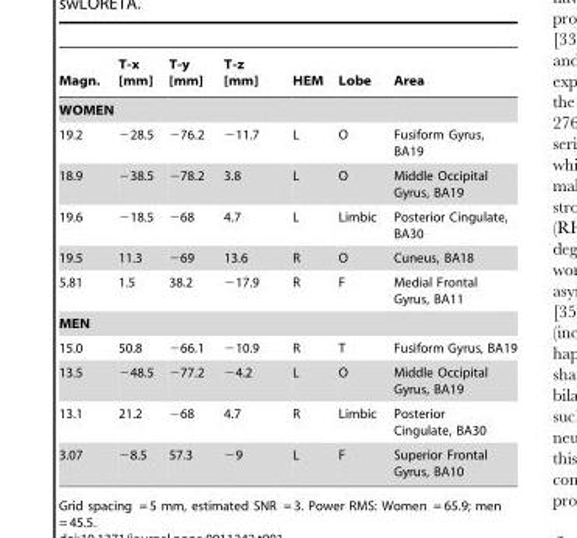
<table><thead><tr><td>Magn.</td><td>T-x [mm]</td><td>T-y [mm]</td><td>T-z [mm]</td><td>HEM</td><td>Lobe</td><td>Area</td></tr></thead><tbody><tr><td colspan="7">WOMEN</td></tr><tr><td>19.2</td><td>−28.5</td><td>−76.2</td><td>−11.7</td><td>L</td><td>O</td><td>Fusiform Gyrus, BA19</td></tr><tr><td>18.9</td><td>−38.5</td><td>−78.2</td><td>3.8</td><td>L</td><td>O</td><td>Middle Occipital Gyrus, BA19</td></tr><tr><td>19.6</td><td>−18.5</td><td>−68</td><td>4.7</td><td>L</td><td>Limbic</td><td>Posterior Cingulate, BA30</td></tr><tr><td>19.5</td><td>11.3</td><td>−69</td><td>13.6</td><td>R</td><td>O</td><td>Cuneus, BA18</td></tr><tr><td>5.81</td><td>1.5</td><td>38.2</td><td>−17.9</td><td>R</td><td>F</td><td>Medial Frontal Gyrus, BA11</td></tr><tr><td colspan="7">MEN</td></tr><tr><td>15.0</td><td>50.8</td><td>−66.1</td><td>−10.9</td><td>R</td><td>T</td><td>Fusiform Gyrus, BA19</td></tr><tr><td>13.5</td><td>−48.5</td><td>−77.2</td><td>−4.2</td><td>L</td><td>O</td><td>Middle Occipital Gyrus, BA19</td></tr><tr><td>13.1</td><td>21.2</td><td>−68</td><td>4.7</td><td>R</td><td>Limbic</td><td>Posterior Cingulate, BA30</td></tr><tr><td>3.07</td><td>−8.5</td><td>57.3</td><td>−9</td><td>L</td><td>F</td><td>Superior Frontal Gyrus, BA10</td></tr></tbody></table>